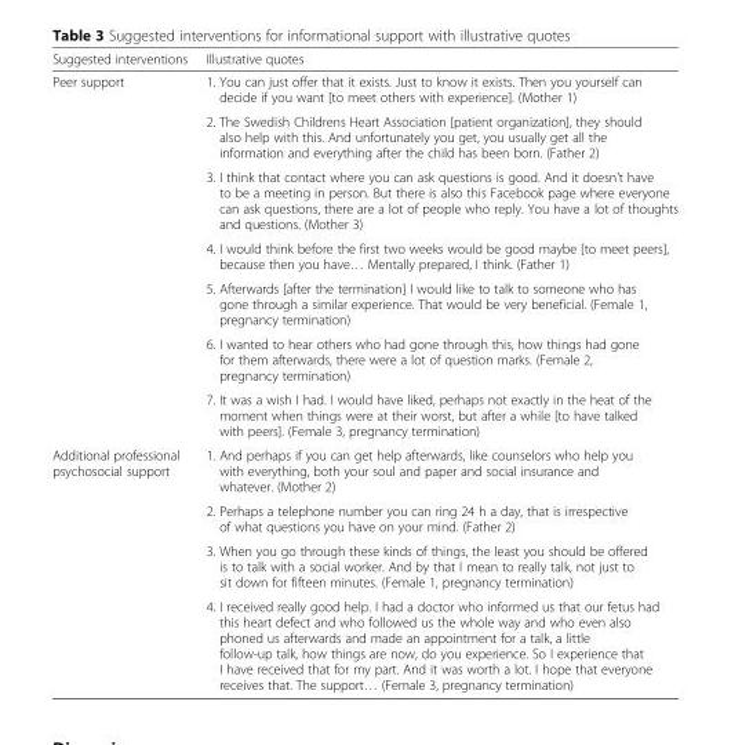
<table><thead><tr><td>Suggested interventions</td><td>Illustrative quotes</td></tr></thead><tbody><tr><td rowspan="7">Peer support</td><td>1. You can just offer that it exists. Just to know it exists. Then you yourself can decide if you want [to meet others with experience]. (Mother 1)</td></tr><tr><td>2. The Swedish Childrens Heart Association [patient organization], they should also help with this. And unfortunately you get, you usually get all the information and everything after the child has been born. (Father 2)</td></tr><tr><td>3. I think that contact where you can ask questions is good. And it doesn’t have to be a meeting in person. But there is also this Facebook page where everyone can ask questions, there are a lot of people who reply. You have a lot of thoughts and questions. (Mother 3)</td></tr><tr><td>4. I would think before the first two weeks would be good maybe [to meet peers], because then you have… Mentally prepared, I think. (Father 1)</td></tr><tr><td>5. Afterwards [after the termination] I would like to talk to someone who has gone through a similar experience. That would be very beneficial. (Female 1, pregnancy termination)</td></tr><tr><td>6. I wanted to hear others who had gone through this, how things had gone for them afterwards, there were a lot of question marks. (Female 2, pregnancy termination)</td></tr><tr><td>7. It was a wish I had. I would have liked, perhaps not exactly in the heat of the moment when things were at their worst, but after a while [to have talked with peers]. (Female 3, pregnancy termination)</td></tr><tr><td rowspan="4">Additional professional psychosocial support</td><td>1. And perhaps if you can get help afterwards, like counselors who help you with everything, both your soul and paper and social insurance and whatever. (Mother 2)</td></tr><tr><td>2. Perhaps a telephone number you can ring 24 h a day, that is irrespective of what questions you have on your mind. (Father 2)</td></tr><tr><td>3. When you go through these kinds of things, the least you should be offered is to talk with a social worker. And by that I mean to really talk, not just to sit down for fifteen minutes. (Female 1, pregnancy termination)</td></tr><tr><td>4. I received really good help. I had a doctor who informed us that our fetus had this heart defect and who followed us the whole way and who even also phoned us afterwards and made an appointment for a talk, a little follow-up talk, how things are now, do you experience. So I experience that I have received that for my part. And it was worth a lot. I hope that everyone receives that. The support… (Female 3, pregnancy termination)</td></tr></tbody></table>